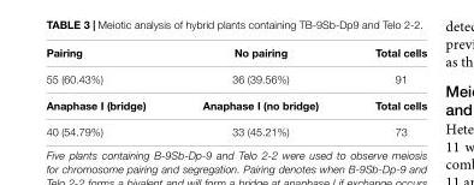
<table><thead><tr><td>Pairing</td><td>No pairing</td><td>Total cells</td></tr></thead><tbody><tr><td>55 (60.43%)</td><td>36 (39.56%)</td><td>91</td></tr><tr><td>Anaphase I (bridge)</td><td>Anaphase I (no bridge)</td><td>Total cells</td></tr><tr><td>40 (54.79%)</td><td>33 (45.21%)</td><td>73</td></tr></tbody></table>